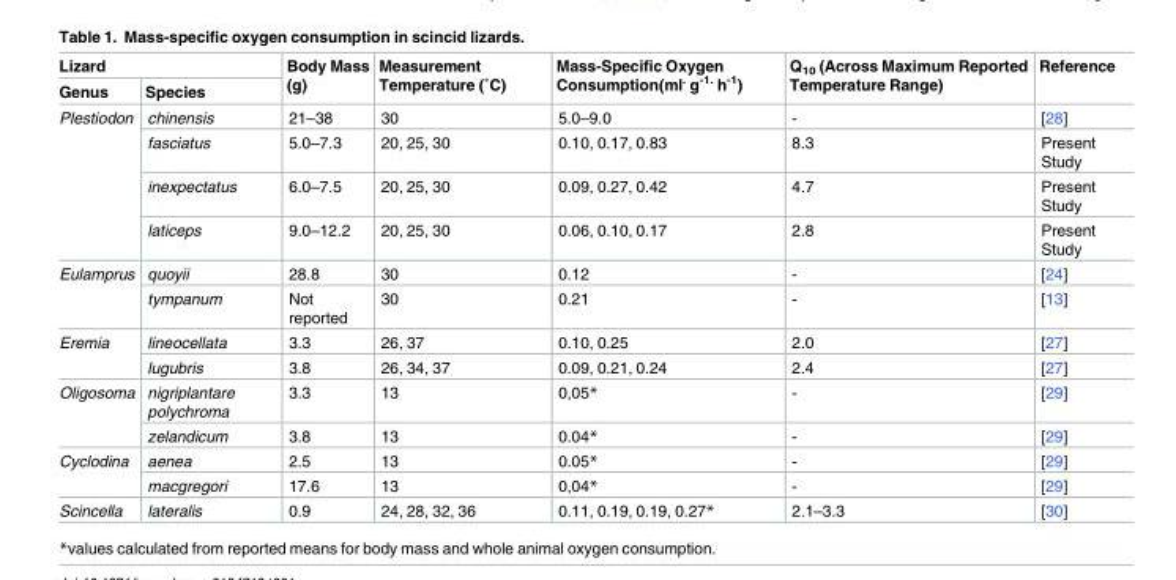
<table><thead><tr><td colspan="2">Lizard</td><td rowspan="2">Body Mass (g)</td><td rowspan="2">Measurement Temperature (˚C)</td><td rowspan="2">Mass-Specific Oxygen Consumption(ml<sup>.</sup> g<sup>-1.</sup> h<sup>-1</sup>)</td><td rowspan="2">Q<sub>10</sub> (Across Maximum Reported Temperature Range)</td><td rowspan="2">Reference</td></tr><tr><td>Genus</td><td>Species</td></tr></thead><tbody><tr><td rowspan="4">Plestiodon</td><td>chinensis</td><td>21–38</td><td>30</td><td>5.0–9.0</td><td>-</td><td>[28]</td></tr><tr><td>fasciatus</td><td>5.0–7.3</td><td>20, 25, 30</td><td>0.10, 0.17, 0.83</td><td>8.3</td><td>Present Study</td></tr><tr><td>inexpectatus</td><td>6.0–7.5</td><td>20, 25, 30</td><td>0.09, 0.27, 0.42</td><td>4.7</td><td>Present Study</td></tr><tr><td>laticeps</td><td>9.0–12.2</td><td>20, 25, 30</td><td>0.06, 0.10, 0.17</td><td>2.8</td><td>Present Study</td></tr><tr><td rowspan="2">Eulamprus</td><td>quoyii</td><td>28.8</td><td>30</td><td>0.12</td><td>-</td><td>[24]</td></tr><tr><td>tympanum</td><td>Not reported</td><td>30</td><td>0.21</td><td>-</td><td>[13]</td></tr><tr><td rowspan="2">Eremia</td><td>lineocellata</td><td>3.3</td><td>26, 37</td><td>0.10, 0.25</td><td>2.0</td><td>[27]</td></tr><tr><td>lugubris</td><td>3.8</td><td>26, 34, 37</td><td>0.09, 0.21, 0.24</td><td>2.4</td><td>[27]</td></tr><tr><td rowspan="2">Oligosoma</td><td>nigriplantare polychroma</td><td>3.3</td><td>13</td><td>0,05*</td><td>-</td><td>[29]</td></tr><tr><td>zelandicum</td><td>3.8</td><td>13</td><td>0.04*</td><td>-</td><td>[29]</td></tr><tr><td rowspan="2">Cyclodina</td><td>aenea</td><td>2.5</td><td>13</td><td>0.05*</td><td>-</td><td>[29]</td></tr><tr><td>macgregori</td><td>17.6</td><td>13</td><td>0,04*</td><td>-</td><td>[29]</td></tr><tr><td>Scincella</td><td>lateralis</td><td>0.9</td><td>24, 28, 32, 36</td><td>0.11, 0.19, 0.19, 0.27*</td><td>2.1–3.3</td><td>[30]</td></tr></tbody></table>